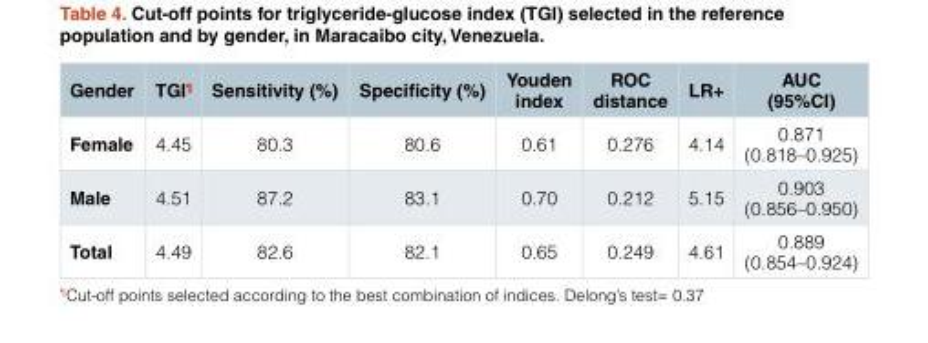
<table><thead><tr><td>Gender</td><td>TGI<sup>¶</sup></td><td>Sensitivity (%)</td><td>Specificity (%)</td><td>Youden index</td><td>ROC distance</td><td>LR+</td><td>AUC (95%CI)</td></tr></thead><tbody><tr><td>Female</td><td>4.45</td><td>80.3</td><td>80.6</td><td>0.61</td><td>0.276</td><td>4.14</td><td>0.871 (0.818–0.925)</td></tr><tr><td>Male</td><td>4.51</td><td>87.2</td><td>83.1</td><td>0.70</td><td>0.212</td><td>5.15</td><td>0.903 (0.856–0.950)</td></tr><tr><td>Total</td><td>4.49</td><td>82.6</td><td>82.1</td><td>0.65</td><td>0.249</td><td>4.61</td><td>0.889 (0.854–0.924)</td></tr></tbody></table>